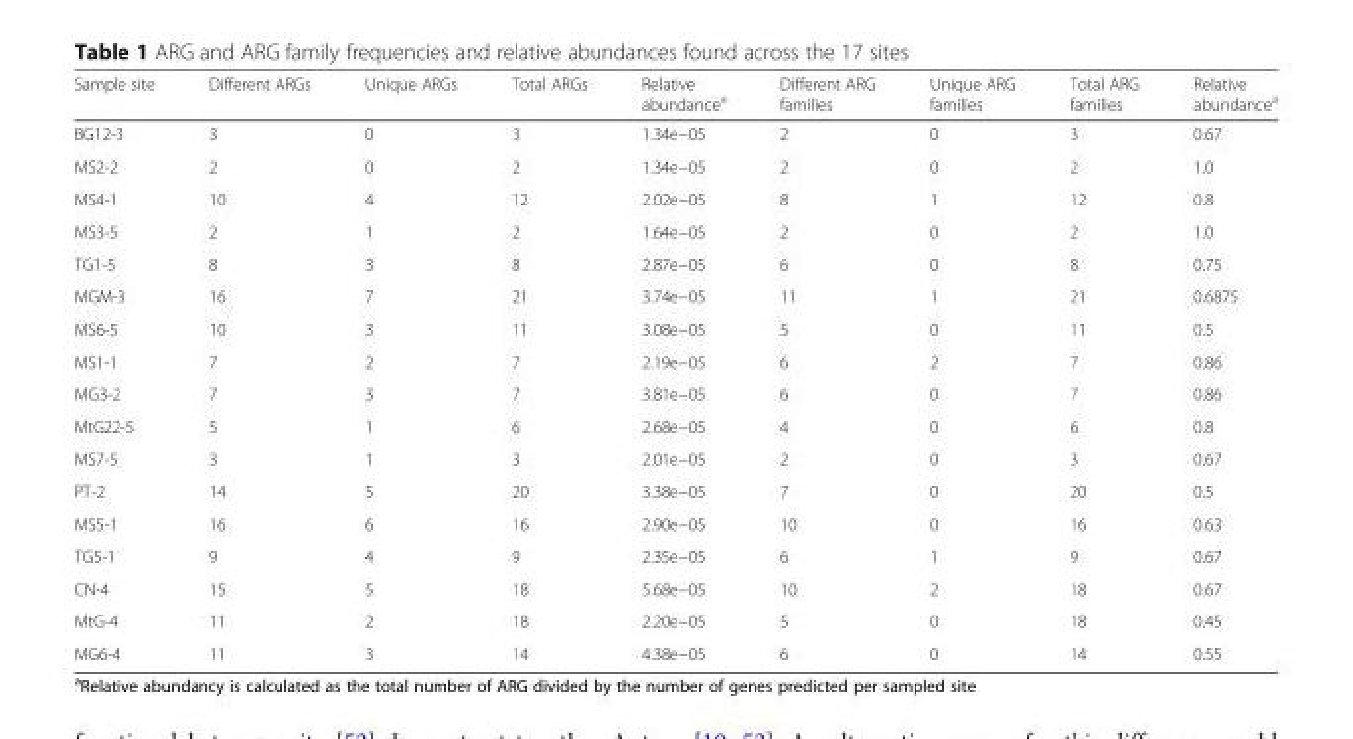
<table><thead><tr><td>Sample site</td><td>Different ARGs</td><td>Unique ARGs</td><td>Total ARGs</td><td>Relative abundance<sup>a</sup></td><td>Different ARG families</td><td>Unique ARG families</td><td>Total ARG families</td><td>Relative abundance<sup>a</sup></td></tr></thead><tbody><tr><td>BG12-3</td><td>3</td><td>0</td><td>3</td><td>1.34e−05</td><td>2</td><td>0</td><td>3</td><td>0.67</td></tr><tr><td>MS2-2</td><td>2</td><td>0</td><td>2</td><td>1.34e−05</td><td>2</td><td>0</td><td>2</td><td>1.0</td></tr><tr><td>MS4-1</td><td>10</td><td>4</td><td>12</td><td>2.02e−05</td><td>8</td><td>1</td><td>12</td><td>0.8</td></tr><tr><td>MS3-5</td><td>2</td><td>1</td><td>2</td><td>1.64e−05</td><td>2</td><td>0</td><td>2</td><td>1.0</td></tr><tr><td>TG1-5</td><td>8</td><td>3</td><td>8</td><td>2.87e−05</td><td>6</td><td>0</td><td>8</td><td>0.75</td></tr><tr><td>MGM-3</td><td>16</td><td>7</td><td>21</td><td>3.74e−05</td><td>11</td><td>1</td><td>21</td><td>0.6875</td></tr><tr><td>MS6-5</td><td>10</td><td>3</td><td>11</td><td>3.08e−05</td><td>5</td><td>0</td><td>11</td><td>0.5</td></tr><tr><td>MS1-1</td><td>7</td><td>2</td><td>7</td><td>2.19e−05</td><td>6</td><td>2</td><td>7</td><td>0.86</td></tr><tr><td>MG3-2</td><td>7</td><td>3</td><td>7</td><td>3.81e−05</td><td>6</td><td>0</td><td>7</td><td>0.86</td></tr><tr><td>MtG22-5</td><td>5</td><td>1</td><td>6</td><td>2.68e−05</td><td>4</td><td>0</td><td>6</td><td>0.8</td></tr><tr><td>MS7-5</td><td>3</td><td>1</td><td>3</td><td>2.01e−05</td><td>2</td><td>0</td><td>3</td><td>0.67</td></tr><tr><td>PT-2</td><td>14</td><td>5</td><td>20</td><td>3.38e−05</td><td>7</td><td>0</td><td>20</td><td>0.5</td></tr><tr><td>MS5-1</td><td>16</td><td>6</td><td>16</td><td>2.90e−05</td><td>10</td><td>0</td><td>16</td><td>0.63</td></tr><tr><td>TG5-1</td><td>9</td><td>4</td><td>9</td><td>2.35e−05</td><td>6</td><td>1</td><td>9</td><td>0.67</td></tr><tr><td>CN-4</td><td>15</td><td>5</td><td>18</td><td>5.68e−05</td><td>10</td><td>2</td><td>18</td><td>0.67</td></tr><tr><td>MtG-4</td><td>11</td><td>2</td><td>18</td><td>2.20e−05</td><td>5</td><td>0</td><td>18</td><td>0.45</td></tr><tr><td>MG6-4</td><td>11</td><td>3</td><td>14</td><td>4.38e−05</td><td>6</td><td>0</td><td>14</td><td>0.55</td></tr></tbody></table>